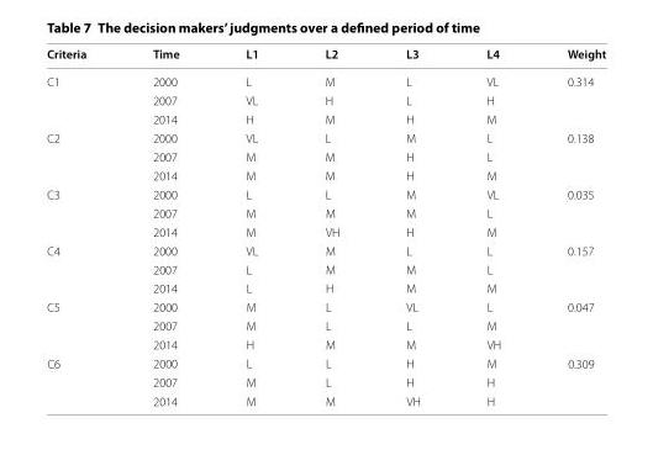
<table><thead><tr><td>Criteria</td><td>Time</td><td>L1</td><td>L2</td><td>L3</td><td>L4</td><td>Weight</td></tr></thead><tbody><tr><td rowspan="3">C1</td><td>2000</td><td>L</td><td>M</td><td>L</td><td>VL</td><td rowspan="3">0.314</td></tr><tr><td>2007</td><td>VL</td><td>H</td><td>L</td><td>H</td></tr><tr><td>2014</td><td>H</td><td>M</td><td>H</td><td>M</td></tr><tr><td rowspan="3">C2</td><td>2000</td><td>VL</td><td>L</td><td>M</td><td>L</td><td rowspan="3">0.138</td></tr><tr><td>2007</td><td>M</td><td>M</td><td>H</td><td>L</td></tr><tr><td>2014</td><td>M</td><td>M</td><td>H</td><td>M</td></tr><tr><td rowspan="3">C3</td><td>2000</td><td>L</td><td>L</td><td>M</td><td>VL</td><td rowspan="3">0.035</td></tr><tr><td>2007</td><td>M</td><td>M</td><td>M</td><td>L</td></tr><tr><td>2014</td><td>M</td><td>VH</td><td>H</td><td>M</td></tr><tr><td rowspan="3">C4</td><td>2000</td><td>VL</td><td>M</td><td>L</td><td>L</td><td rowspan="3">0.157</td></tr><tr><td>2007</td><td>L</td><td>M</td><td>M</td><td>L</td></tr><tr><td>2014</td><td>L</td><td>H</td><td>M</td><td>M</td></tr><tr><td rowspan="3">C5</td><td>2000</td><td>M</td><td>L</td><td>VL</td><td>L</td><td rowspan="3">0.047</td></tr><tr><td>2007</td><td>M</td><td>L</td><td>L</td><td>M</td></tr><tr><td>2014</td><td>H</td><td>M</td><td>M</td><td>VH</td></tr><tr><td rowspan="3">C6</td><td>2000</td><td>L</td><td>L</td><td>H</td><td>M</td><td rowspan="3">0.309</td></tr><tr><td>2007</td><td>M</td><td>L</td><td>H</td><td>H</td></tr><tr><td>2014</td><td>M</td><td>M</td><td>VH</td><td>H</td></tr></tbody></table>